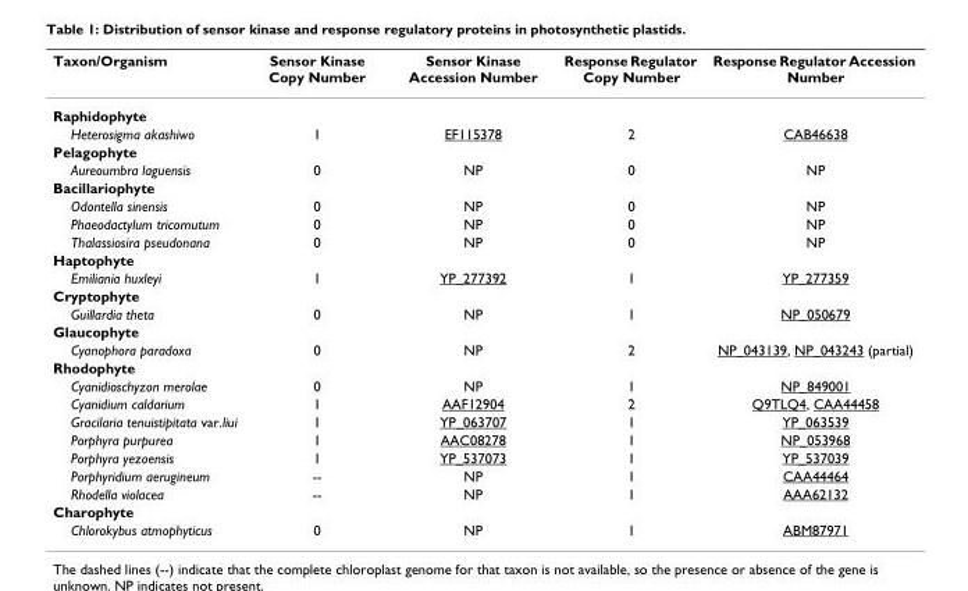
<table><thead><tr><td>Taxon/Organism</td><td>Sensor Kinase Copy Number</td><td>Sensor Kinase Accession Number</td><td>Response Regulator Copy Number</td><td>Response Regulator Accession Number</td></tr></thead><tbody><tr><td colspan="5">Raphidophyte</td></tr><tr><td>Heterosigma akashiwo</td><td>1</td><td>EF115378</td><td>2</td><td>CAB46638</td></tr><tr><td colspan="5">Pelagophyte</td></tr><tr><td>Aureoumbra laguensis</td><td>0</td><td>NP</td><td>0</td><td>NP</td></tr><tr><td colspan="5">Bacillariophyte</td></tr><tr><td>Odontella sinensis</td><td>0</td><td>NP</td><td>0</td><td>NP</td></tr><tr><td>Phaeodactylum tricornutum</td><td>0</td><td>NP</td><td>0</td><td>NP</td></tr><tr><td>Thalassiosira pseudonana</td><td>0</td><td>NP</td><td>0</td><td>NP</td></tr><tr><td colspan="5">Haptophyte</td></tr><tr><td>Emiliania huxleyi</td><td>1</td><td>YP_277392</td><td>1</td><td>YP_277359</td></tr><tr><td colspan="5">Cryptophyte</td></tr><tr><td>Guillardia theta</td><td>0</td><td>NP</td><td>1</td><td>NP_050679</td></tr><tr><td colspan="5">Glaucophyte</td></tr><tr><td>Cyanophora paradoxa</td><td>0</td><td>NP</td><td>2</td><td>NP_043139, NP_043243 (partial)</td></tr><tr><td colspan="5">Rhodophyte</td></tr><tr><td>Cyanidioschyzon merolae</td><td>0</td><td>NP</td><td>1</td><td>NP_849001</td></tr><tr><td>Cyanidium caldarium</td><td>1</td><td>AAF12904</td><td>2</td><td>Q9TLQ4, CAA44458</td></tr><tr><td>Gracilaria tenuistipitata var.liui</td><td>1</td><td>YP_063707</td><td>1</td><td>YP_063539</td></tr><tr><td>Porphyra purpurea</td><td>1</td><td>AAC08278</td><td>1</td><td>NP_053968</td></tr><tr><td>Porphyra yezoensis</td><td>1</td><td>YP_537073</td><td>1</td><td>YP_537039</td></tr><tr><td>Porphyridium aerugineum</td><td>--</td><td>NP</td><td>1</td><td>CAA44464</td></tr><tr><td>Rhodella violacea</td><td>--</td><td>NP</td><td>1</td><td>AAA62132</td></tr><tr><td colspan="5">Charophyte</td></tr><tr><td>Chlorokybus atmophyticus</td><td>0</td><td>NP</td><td>1</td><td>ABM87971</td></tr></tbody></table>